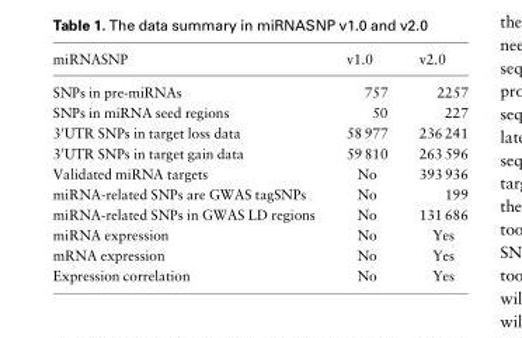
<table><thead><tr><td>miRNASNP</td><td>v1.0</td><td>v2.0</td></tr></thead><tbody><tr><td>SNPs in pre-miRNAs</td><td>757</td><td>2257</td></tr><tr><td>SNPs in miRNA seed regions</td><td>50</td><td>227</td></tr><tr><td>3′UTR SNPs in target loss data</td><td>58 977</td><td>236 241</td></tr><tr><td>3′UTR SNPs in target gain data</td><td>59 810</td><td>263 596</td></tr><tr><td>Validated miRNA targets</td><td>No</td><td>393 936</td></tr><tr><td>miRNA-related SNPs are GWAS tagSNPs</td><td>No</td><td>199</td></tr><tr><td>miRNA-related SNPs in GWAS LD regions</td><td>No</td><td>131 686</td></tr><tr><td>miRNA expression</td><td>No</td><td>Yes</td></tr><tr><td>mRNA expression</td><td>No</td><td>Yes</td></tr><tr><td>Expression correlation</td><td>No</td><td>Yes</td></tr></tbody></table>